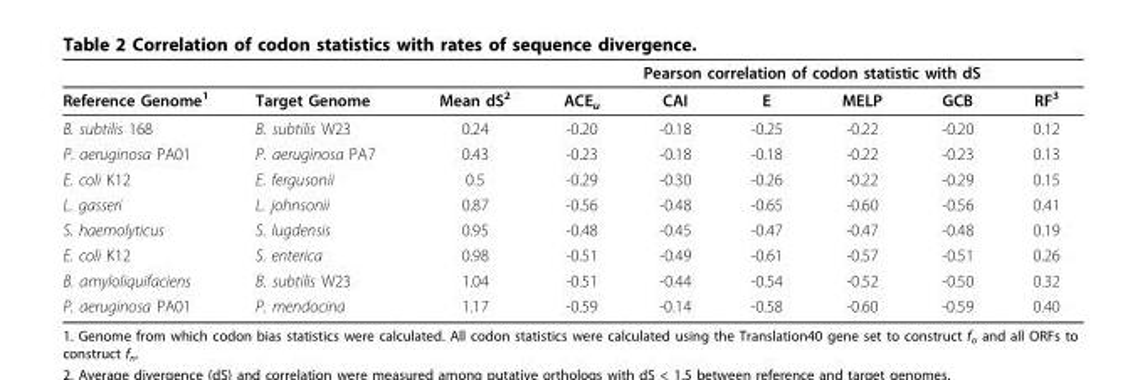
<table><thead><tr><td rowspan="2">Reference Genome<sup>1</sup></td><td rowspan="2">Target Genome</td><td rowspan="2">Mean dS<sup>2</sup></td><td colspan="6">Pearson correlation of codon statistic with dS</td></tr><tr><td>ACE<sub>u</sub></td><td>CAI</td><td>E</td><td>MELP</td><td>GCB</td><td>RF<sup>3</sup></td></tr></thead><tbody><tr><td>B. subtilis 168</td><td>B. subtilis W23</td><td>0.24</td><td>-0.20</td><td>-0.18</td><td>-0.25</td><td>-0.22</td><td>-0.20</td><td>0.12</td></tr><tr><td>P. aeruginosa PA01</td><td>P. aeruginosa PA7</td><td>0.43</td><td>-0.23</td><td>-0.18</td><td>-0.18</td><td>-0.22</td><td>-0.23</td><td>0.13</td></tr><tr><td>E. coli K12</td><td>E. fergusonii</td><td>0.5</td><td>-0.29</td><td>-0.30</td><td>-0.26</td><td>-0.22</td><td>-0.29</td><td>0.15</td></tr><tr><td>L. gasseri</td><td>L. johnsonii</td><td>0.87</td><td>-0.56</td><td>-0.48</td><td>-0.65</td><td>-0.60</td><td>-0.56</td><td>0.41</td></tr><tr><td>S. haemolyticus</td><td>S. lugdensis</td><td>0.95</td><td>-0.48</td><td>-0.45</td><td>-0.47</td><td>-0.47</td><td>-0.48</td><td>0.19</td></tr><tr><td>E. coli K12</td><td>S. enterica</td><td>0.98</td><td>-0.51</td><td>-0.49</td><td>-0.61</td><td>-0.57</td><td>-0.51</td><td>0.26</td></tr><tr><td>B. amyloliquifaciens</td><td>B. subtilis W23</td><td>1.04</td><td>-0.51</td><td>-0.44</td><td>-0.54</td><td>-0.52</td><td>-0.50</td><td>0.32</td></tr><tr><td>P. aeruginosa PA01</td><td>P. mendocina</td><td>1.17</td><td>-0.59</td><td>-0.14</td><td>-0.58</td><td>-0.60</td><td>-0.59</td><td>0.40</td></tr></tbody></table>